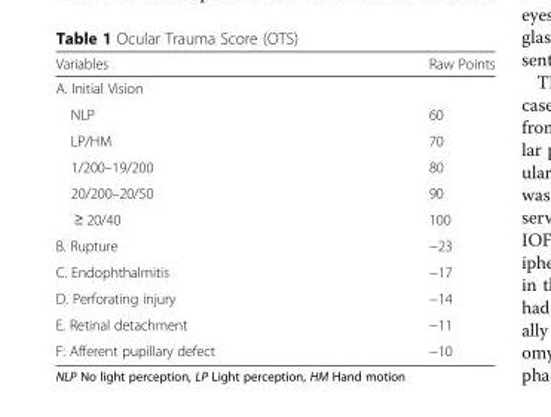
<table><thead><tr><td>Variables</td><td>Raw Points</td></tr></thead><tbody><tr><td colspan="2">A. Initial Vision</td></tr><tr><td>NLP</td><td>60</td></tr><tr><td>LP/HM</td><td>70</td></tr><tr><td>1/200–19/200</td><td>80</td></tr><tr><td>20/200–20/50</td><td>90</td></tr><tr><td>≥ 20/40</td><td>100</td></tr><tr><td>B. Rupture</td><td>−23</td></tr><tr><td>C. Endophthalmitis</td><td>−17</td></tr><tr><td>D. Perforating injury</td><td>−14</td></tr><tr><td>E. Retinal detachment</td><td>−11</td></tr><tr><td>F: Afferent pupillary defect</td><td>−10</td></tr></tbody></table>